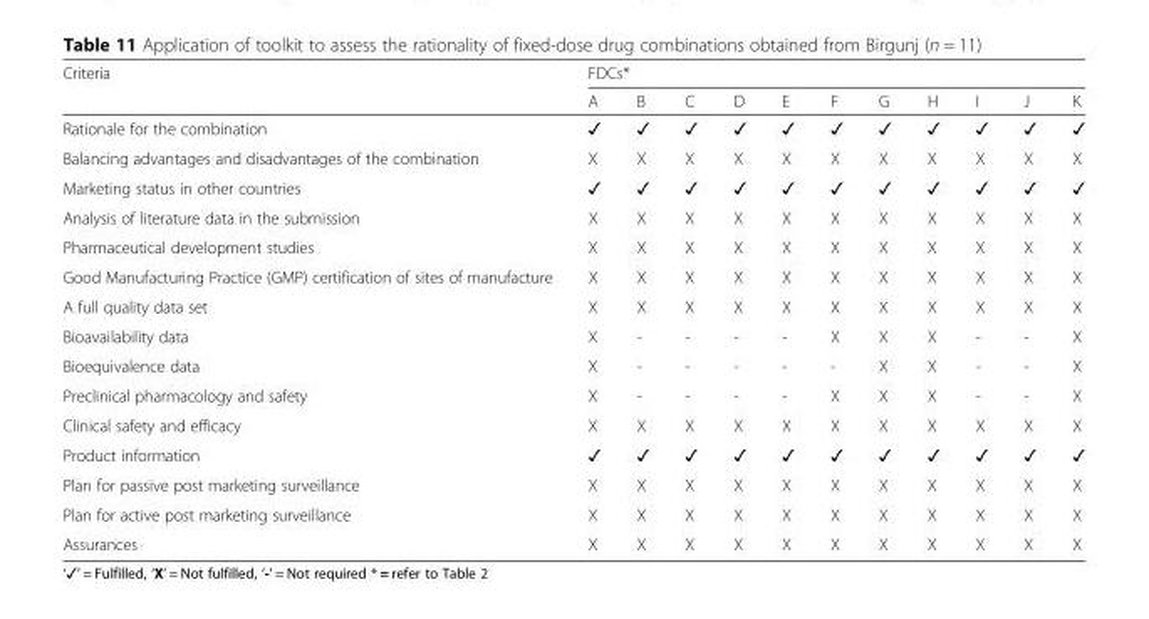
<table><thead><tr><td rowspan="2">Criteria</td><td colspan="11">FDCs*</td></tr><tr><td>A</td><td>B</td><td>C</td><td>D</td><td>E</td><td>F</td><td>G</td><td>H</td><td>I</td><td>J</td><td>K</td></tr></thead><tbody><tr><td>Rationale for the combination</td><td>✓</td><td>✓</td><td>✓</td><td>✓</td><td>✓</td><td>✓</td><td>✓</td><td>✓</td><td>✓</td><td>✓</td><td>✓</td></tr><tr><td>Balancing advantages and disadvantages of the combination</td><td>X</td><td>X</td><td>X</td><td>X</td><td>X</td><td>X</td><td>X</td><td>X</td><td>X</td><td>X</td><td>X</td></tr><tr><td>Marketing status in other countries</td><td>✓</td><td>✓</td><td>✓</td><td>✓</td><td>✓</td><td>✓</td><td>✓</td><td>✓</td><td>✓</td><td>✓</td><td>✓</td></tr><tr><td>Analysis of literature data in the submission</td><td>X</td><td>X</td><td>X</td><td>X</td><td>X</td><td>X</td><td>X</td><td>X</td><td>X</td><td>X</td><td>X</td></tr><tr><td>Pharmaceutical development studies</td><td>X</td><td>X</td><td>X</td><td>X</td><td>X</td><td>X</td><td>X</td><td>X</td><td>X</td><td>X</td><td>X</td></tr><tr><td>Good Manufacturing Practice (GMP) certification of sites of manufacture</td><td>X</td><td>X</td><td>X</td><td>X</td><td>X</td><td>X</td><td>X</td><td>X</td><td>X</td><td>X</td><td>X</td></tr><tr><td>A full quality data set</td><td>X</td><td>X</td><td>X</td><td>X</td><td>X</td><td>X</td><td>X</td><td>X</td><td>X</td><td>X</td><td>X</td></tr><tr><td>Bioavailability data</td><td>X</td><td>-</td><td>-</td><td>-</td><td>-</td><td>X</td><td>X</td><td>X</td><td>-</td><td>-</td><td>X</td></tr><tr><td>Bioequivalence data</td><td>X</td><td>-</td><td>-</td><td>-</td><td>-</td><td>-</td><td>X</td><td>X</td><td>-</td><td>-</td><td>X</td></tr><tr><td>Preclinical pharmacology and safety</td><td>X</td><td>-</td><td>-</td><td>-</td><td>-</td><td>X</td><td>X</td><td>X</td><td>-</td><td>-</td><td>X</td></tr><tr><td>Clinical safety and efficacy</td><td>X</td><td>X</td><td>X</td><td>X</td><td>X</td><td>X</td><td>X</td><td>X</td><td>X</td><td>X</td><td>X</td></tr><tr><td>Product information</td><td>✓</td><td>✓</td><td>✓</td><td>✓</td><td>✓</td><td>✓</td><td>✓</td><td>✓</td><td>✓</td><td>✓</td><td>✓</td></tr><tr><td>Plan for passive post marketing surveillance</td><td>X</td><td>X</td><td>X</td><td>X</td><td>X</td><td>X</td><td>X</td><td>X</td><td>X</td><td>X</td><td>X</td></tr><tr><td>Plan for active post marketing surveillance</td><td>X</td><td>X</td><td>X</td><td>X</td><td>X</td><td>X</td><td>X</td><td>X</td><td>X</td><td>X</td><td>X</td></tr><tr><td>Assurances</td><td>X</td><td>X</td><td>X</td><td>X</td><td>X</td><td>X</td><td>X</td><td>X</td><td>X</td><td>X</td><td>X</td></tr></tbody></table>